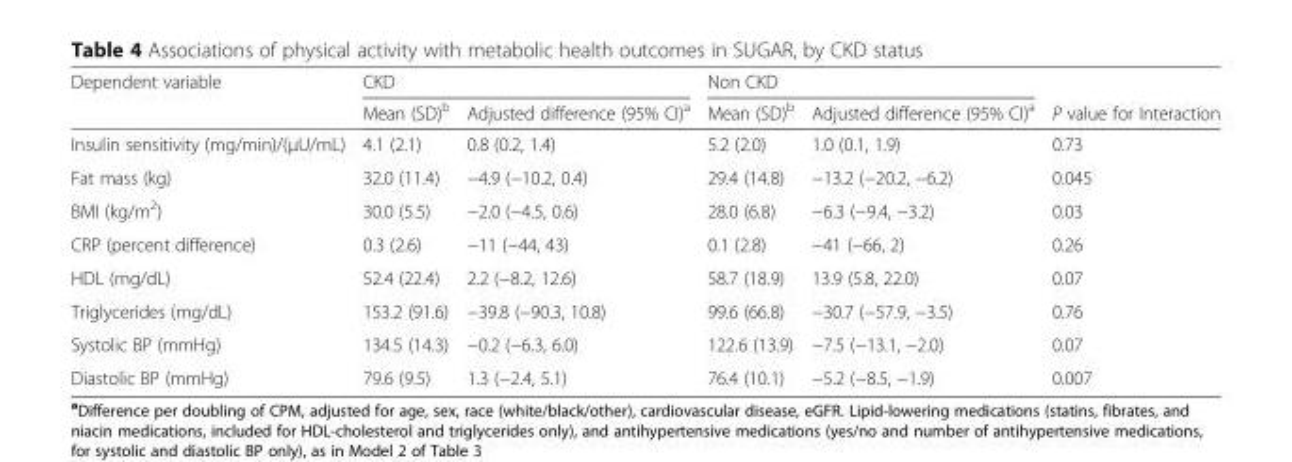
<table><thead><tr><td rowspan="2">Dependent variable</td><td colspan="2">CKD</td><td colspan="2">Non CKD</td><td rowspan="2">P value for Interaction</td></tr><tr><td>Mean (SD)<sup>b</sup></td><td>Adjusted difference (95% CI)<sup>a</sup></td><td>Mean (SD)<sup>b</sup></td><td>Adjusted difference (95% CI)<sup>a</sup></td></tr></thead><tbody><tr><td>Insulin sensitivity (mg/min)/(μU/mL)</td><td>4.1 (2.1)</td><td>0.8 (0.2, 1.4)</td><td>5.2 (2.0)</td><td>1.0 (0.1, 1.9)</td><td>0.73</td></tr><tr><td>Fat mass (kg)</td><td>32.0 (11.4)</td><td>−4.9 (−10.2, 0.4)</td><td>29.4 (14.8)</td><td>−13.2 (−20.2, −6.2)</td><td>0.045</td></tr><tr><td>BMI (kg/m<sup>2</sup>)</td><td>30.0 (5.5)</td><td>−2.0 (−4.5, 0.6)</td><td>28.0 (6.8)</td><td>−6.3 (−9.4, −3.2)</td><td>0.03</td></tr><tr><td>CRP (percent difference)</td><td>0.3 (2.6)</td><td>−11 (−44, 43)</td><td>0.1 (2.8)</td><td>−41 (−66, 2)</td><td>0.26</td></tr><tr><td>HDL (mg/dL)</td><td>52.4 (22.4)</td><td>2.2 (−8.2, 12.6)</td><td>58.7 (18.9)</td><td>13.9 (5.8, 22.0)</td><td>0.07</td></tr><tr><td>Triglycerides (mg/dL)</td><td>153.2 (91.6)</td><td>−39.8 (−90.3, 10.8)</td><td>99.6 (66.8)</td><td>−30.7 (−57.9, −3.5)</td><td>0.76</td></tr><tr><td>Systolic BP (mmHg)</td><td>134.5 (14.3)</td><td>−0.2 (−6.3, 6.0)</td><td>122.6 (13.9)</td><td>−7.5 (−13.1, −2.0)</td><td>0.07</td></tr><tr><td>Diastolic BP (mmHg)</td><td>79.6 (9.5)</td><td>1.3 (−2.4, 5.1)</td><td>76.4 (10.1)</td><td>−5.2 (−8.5, −1.9)</td><td>0.007</td></tr></tbody></table>